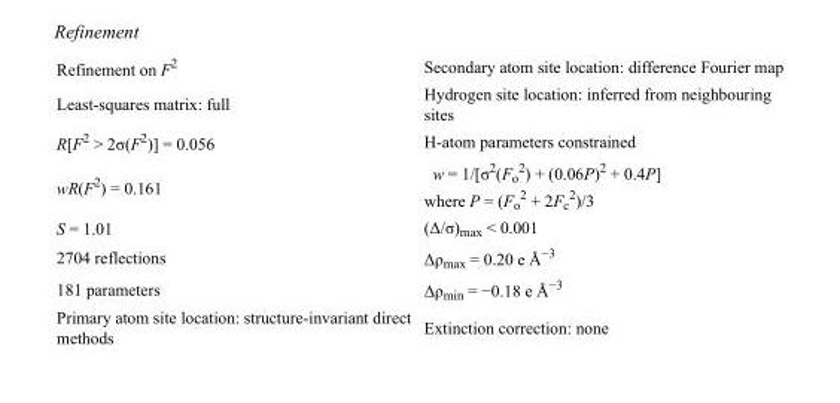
<table><tbody><tr><td>Refinement on F<sup>2</sup></td><td>Secondary atom site location: difference Fourier map</td></tr><tr><td>Least-squares matrix: full</td><td>Hydrogen site location: inferred from neighbouring sites</td></tr><tr><td>R[F<sup>2</sup> &gt; 2σ(F<sup>2</sup>)] = 0.056</td><td>H-atom parameters constrained</td></tr><tr><td>wR(F<sup>2</sup>) = 0.161</td><td>w = 1/[σ<sup>2</sup>(F<sub>o</sub> <sup>2</sup>) + (0.06P)<sup>2</sup> + 0.4P] where P = (F<sub>o</sub> <sup>2</sup> + 2F<sub>c</sub> <sup>2</sup>)/3</td></tr><tr><td>S = 1.01</td><td>(Δ/σ)<sub>max</sub> &lt; 0.001</td></tr><tr><td>2704 reflections</td><td>Δρ<sub>max</sub> = 0.20 e Å<sup>−3</sup></td></tr><tr><td>181 parameters</td><td>Δρ<sub>min</sub> = −0.18 e Å<sup>−3</sup></td></tr><tr><td>Primary atom site location: structure-invariant direct methods</td><td>Extinction correction: none</td></tr></tbody></table>